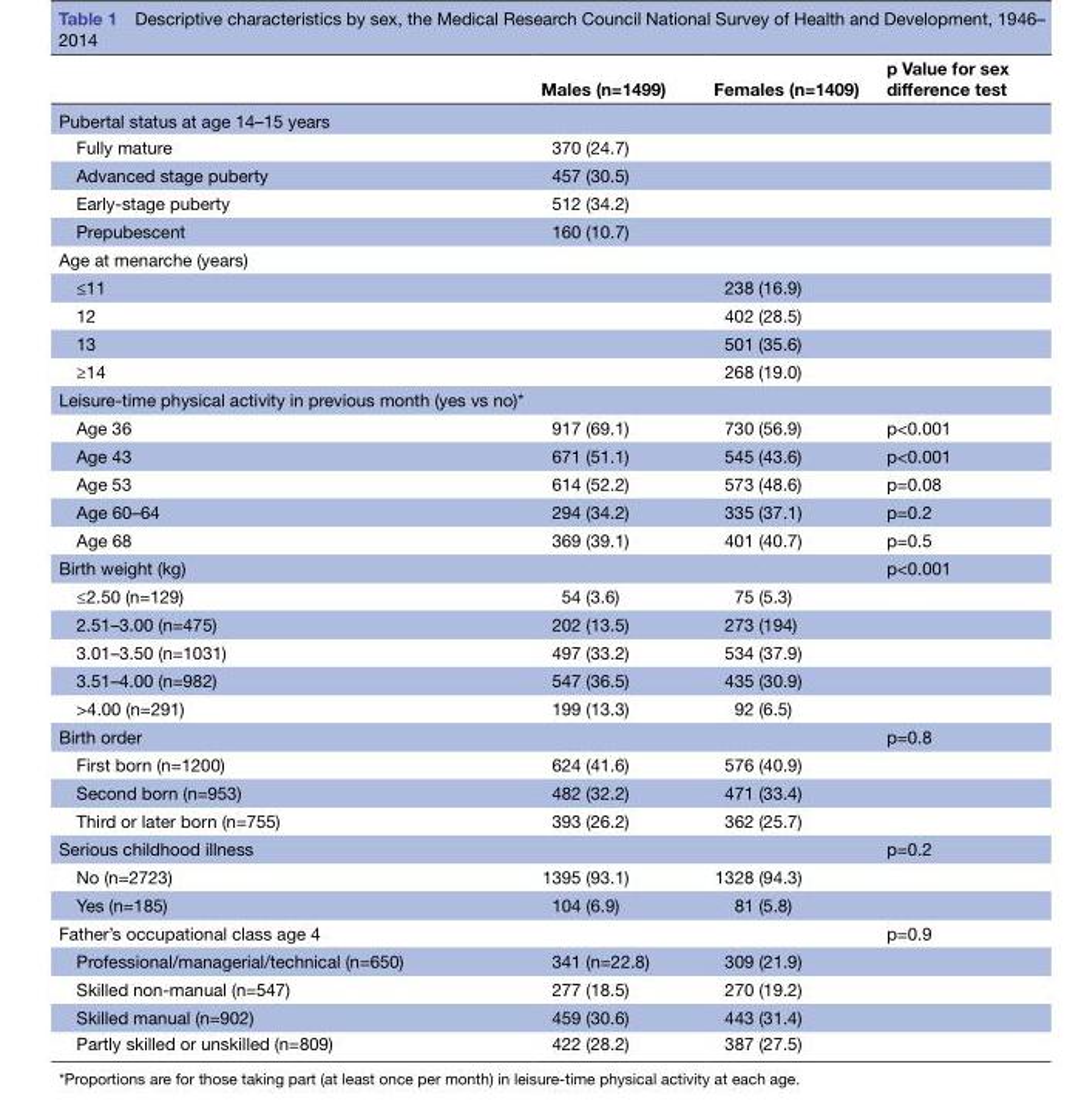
<table><thead><tr><td></td><td>Males (n=1499)</td><td>Females (n=1409)</td><td>p Value for sex difference test</td></tr></thead><tbody><tr><td colspan="4">Pubertal status at age 14–15 years</td></tr><tr><td>Fully mature</td><td>370 (24.7)</td><td></td><td></td></tr><tr><td>Advanced stage puberty</td><td>457 (30.5)</td><td></td><td></td></tr><tr><td>Early-stage puberty</td><td>512 (34.2)</td><td></td><td></td></tr><tr><td>Prepubescent</td><td>160 (10.7)</td><td></td><td></td></tr><tr><td colspan="4">Age at menarche (years)</td></tr><tr><td>≤11</td><td></td><td>238 (16.9)</td><td></td></tr><tr><td>12</td><td></td><td>402 (28.5)</td><td></td></tr><tr><td>13</td><td></td><td>501 (35.6)</td><td></td></tr><tr><td>≥14</td><td></td><td>268 (19.0)</td><td></td></tr><tr><td colspan="4">Leisure-time physical activity in previous month (yes vs no)*</td></tr><tr><td>Age 36</td><td>917 (69.1)</td><td>730 (56.9)</td><td>p&lt;0.001</td></tr><tr><td>Age 43</td><td>671 (51.1)</td><td>545 (43.6)</td><td>p&lt;0.001</td></tr><tr><td>Age 53</td><td>614 (52.2)</td><td>573 (48.6)</td><td>p=0.08</td></tr><tr><td>Age 60–64</td><td>294 (34.2)</td><td>335 (37.1)</td><td>p=0.2</td></tr><tr><td>Age 68</td><td>369 (39.1)</td><td>401 (40.7)</td><td>p=0.5</td></tr><tr><td>Birth weight (kg)</td><td></td><td></td><td>p&lt;0.001</td></tr><tr><td>≤2.50 (n=129)</td><td>54 (3.6)</td><td>75 (5.3)</td><td></td></tr><tr><td>2.51–3.00 (n=475)</td><td>202 (13.5)</td><td>273 (194)</td><td></td></tr><tr><td>3.01–3.50 (n=1031)</td><td>497 (33.2)</td><td>534 (37.9)</td><td></td></tr><tr><td>3.51–4.00 (n=982)</td><td>547 (36.5)</td><td>435 (30.9)</td><td></td></tr><tr><td>&gt;4.00 (n=291)</td><td>199 (13.3)</td><td>92 (6.5)</td><td></td></tr><tr><td>Birth order</td><td></td><td></td><td>p=0.8</td></tr><tr><td>First born (n=1200)</td><td>624 (41.6)</td><td>576 (40.9)</td><td></td></tr><tr><td>Second born (n=953)</td><td>482 (32.2)</td><td>471 (33.4)</td><td></td></tr><tr><td>Third or later born (n=755)</td><td>393 (26.2)</td><td>362 (25.7)</td><td></td></tr><tr><td>Serious childhood illness</td><td></td><td></td><td>p=0.2</td></tr><tr><td>No (n=2723)</td><td>1395 (93.1)</td><td>1328 (94.3)</td><td></td></tr><tr><td>Yes (n=185)</td><td>104 (6.9)</td><td>81 (5.8)</td><td></td></tr><tr><td>Father’s occupational class age 4</td><td></td><td></td><td>p=0.9</td></tr><tr><td>Professional/managerial/technical (n=650)</td><td>341 (n=22.8)</td><td>309 (21.9)</td><td></td></tr><tr><td>Skilled non-manual (n=547)</td><td>277 (18.5)</td><td>270 (19.2)</td><td></td></tr><tr><td>Skilled manual (n=902)</td><td>459 (30.6)</td><td>443 (31.4)</td><td></td></tr><tr><td>Partly skilled or unskilled (n=809)</td><td>422 (28.2)</td><td>387 (27.5)</td><td></td></tr></tbody></table>